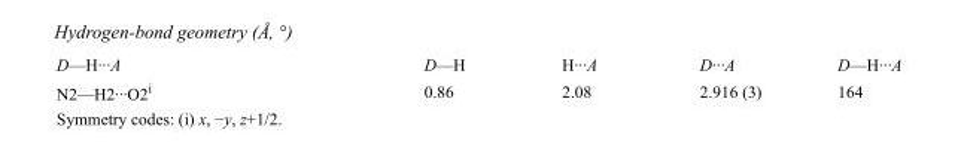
<table><tbody><tr><td>D—H···A</td><td>D—H</td><td>H···A</td><td>D···A</td><td>D—H···A</td></tr><tr><td>N2—H2···O2<sup>i</sup></td><td>0.86</td><td>2.08</td><td>2.916 (3)</td><td>164</td></tr></tbody></table>